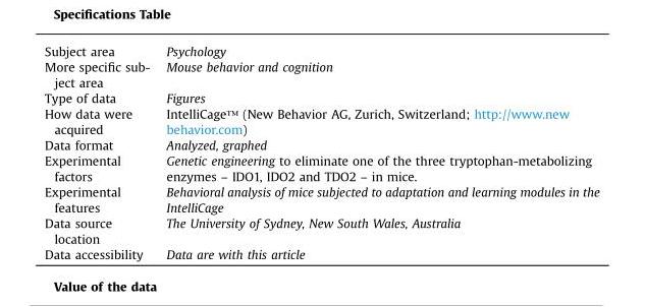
<table><tbody><tr><td>Subject area</td><td>Psychology</td></tr><tr><td>More specific sub- ject area</td><td>Mouse behavior and cognition</td></tr><tr><td>Type of data</td><td>Figures</td></tr><tr><td>How data were acquired</td><td>IntelliCage™ (New Behavior AG, Zurich, Switzerland; http://www.new behavior.com)</td></tr><tr><td>Data format</td><td>Analyzed, graphed</td></tr><tr><td>Experimental factors</td><td>Genetic engineering to eliminate one of the three tryptophan-metabolizing enzymes – IDO1, IDO2 and TDO2 – in mice.</td></tr><tr><td>Experimental features</td><td>Behavioral analysis of mice subjected to adaptation and learning modules in the IntelliCage</td></tr><tr><td>Data source location</td><td>The University of Sydney, New South Wales, Australia</td></tr><tr><td>Data accessibility</td><td>Data are with this article</td></tr></tbody></table>